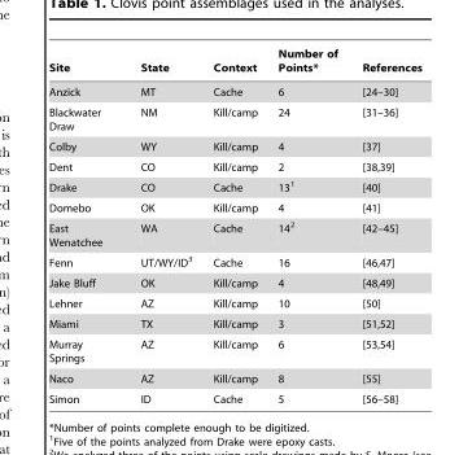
<table><thead><tr><td>Site</td><td>State</td><td>Context</td><td>Number of Points*</td><td>References</td></tr></thead><tbody><tr><td>Anzick</td><td>MT</td><td>Cache</td><td>6</td><td>[24–30]</td></tr><tr><td>Blackwater Draw</td><td>NM</td><td>Kill/camp</td><td>24</td><td>[31–36]</td></tr><tr><td>Colby</td><td>WY</td><td>Kill/camp</td><td>4</td><td>[37]</td></tr><tr><td>Dent</td><td>CO</td><td>Kill/camp</td><td>2</td><td>[38,39]</td></tr><tr><td>Drake</td><td>CO</td><td>Cache</td><td>13<sup>1</sup></td><td>[40]</td></tr><tr><td>Domebo</td><td>OK</td><td>Kill/camp</td><td>4</td><td>[41]</td></tr><tr><td>East Wenatchee</td><td>WA</td><td>Cache</td><td>14<sup>2</sup></td><td>[42–45]</td></tr><tr><td>Fenn</td><td>UT/WY/ID<sup>3</sup></td><td>Cache</td><td>16</td><td>[46,47]</td></tr><tr><td>Jake Bluff</td><td>OK</td><td>Kill/camp</td><td>4</td><td>[48,49]</td></tr><tr><td>Lehner</td><td>AZ</td><td>Kill/camp</td><td>10</td><td>[50]</td></tr><tr><td>Miami</td><td>TX</td><td>Kill/camp</td><td>3</td><td>[51,52]</td></tr><tr><td>Murray Springs</td><td>AZ</td><td>Kill/camp</td><td>6</td><td>[53,54]</td></tr><tr><td>Naco</td><td>AZ</td><td>Kill/camp</td><td>8</td><td>[55]</td></tr><tr><td>Simon</td><td>ID</td><td>Cache</td><td>5</td><td>[56–58]</td></tr></tbody></table>